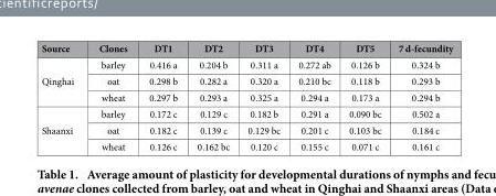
<table><thead><tr><td>Source</td><td>Clones</td><td>DT1</td><td>DT2</td><td>DT3</td><td>DT4</td><td>DT5</td><td>7 d-fecundity</td></tr></thead><tbody><tr><td rowspan="3">Qinghai</td><td>barley</td><td>0.416 a</td><td>0.204 b</td><td>0.311 a</td><td>0.272 ab</td><td>0.126 b</td><td>0.324 b</td></tr><tr><td>oat</td><td>0.298 b</td><td>0.282 a</td><td>0.320 a</td><td>0.210 bc</td><td>0.118 b</td><td>0.293 b</td></tr><tr><td>wheat</td><td>0.297 b</td><td>0.293 a</td><td>0.325 a</td><td>0.294 a</td><td>0.173 a</td><td>0.294 b</td></tr><tr><td rowspan="3">Shaanxi</td><td>barley</td><td>0.172 c</td><td>0.129 c</td><td>0.182 b</td><td>0.291 a</td><td>0.090 bc</td><td>0.502 a</td></tr><tr><td>oat</td><td>0.182 c</td><td>0.139 c</td><td>0.129 bc</td><td>0.201 c</td><td>0.103 bc</td><td>0.184 c</td></tr><tr><td>wheat</td><td>0.126 c</td><td>0.162 bc</td><td>0.120 c</td><td>0.155 c</td><td>0.071 c</td><td>0.161 c</td></tr></tbody></table>